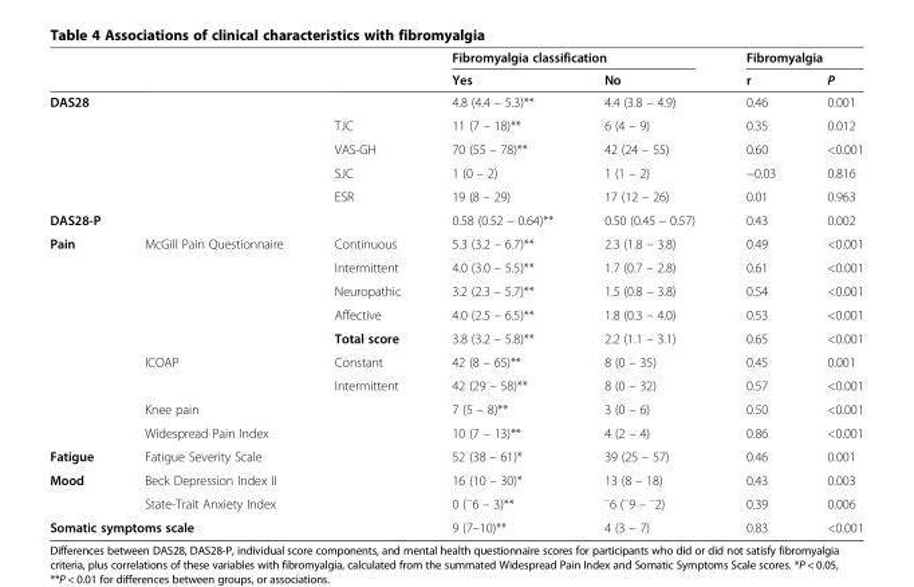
<table><thead><tr><td rowspan="2"></td><td rowspan="2"></td><td rowspan="2"></td><td colspan="2">Fibromyalgia classification</td><td colspan="2">Fibromyalgia</td></tr><tr><td>Yes</td><td>No</td><td>r</td><td>P</td></tr></thead><tbody><tr><td colspan="3">DAS28</td><td>4.8 (4.4 – 5.3)**</td><td>4.4 (3.8 – 4.9)</td><td>0.46</td><td>0.001</td></tr><tr><td colspan="2"></td><td>TJC</td><td>11 (7 – 18)**</td><td>6 (4 – 9)</td><td>0.35</td><td>0.012</td></tr><tr><td colspan="2"></td><td>VAS-GH</td><td>70 (55 – 78)**</td><td>42 (24 – 55)</td><td>0.60</td><td>&lt;0.001</td></tr><tr><td colspan="2"></td><td>SJC</td><td>1 (0 – 2)</td><td>1 (1 – 2)</td><td>−0.03</td><td>0.816</td></tr><tr><td colspan="2"></td><td>ESR</td><td>19 (8 – 29)</td><td>17 (12 – 26)</td><td>0.01</td><td>0.963</td></tr><tr><td colspan="3">DAS28-P</td><td>0.58 (0.52 – 0.64)**</td><td>0.50 (0.45 – 0.57)</td><td>0.43</td><td>0.002</td></tr><tr><td rowspan="9">Pain</td><td rowspan="5">McGill Pain Questionnaire</td><td>Continuous</td><td>5.3 (3.2 – 6.7)**</td><td>2.3 (1.8 – 3.8)</td><td>0.49</td><td>&lt;0.001</td></tr><tr><td>Intermittent</td><td>4.0 (3.0 – 5.5)**</td><td>1.7 (0.7 – 2.8)</td><td>0.61</td><td>&lt;0.001</td></tr><tr><td>Neuropathic</td><td>3.2 (2.3 – 5.7)**</td><td>1.5 (0.8 – 3.8)</td><td>0.54</td><td>&lt;0.001</td></tr><tr><td>Affective</td><td>4.0 (2.5 – 6.5)**</td><td>1.8 (0.3 – 4.0)</td><td>0.53</td><td>&lt;0.001</td></tr><tr><td>Total score</td><td>3.8 (3.2 – 5.8)**</td><td>2.2 (1.1 – 3.1)</td><td>0.65</td><td>&lt;0.001</td></tr><tr><td rowspan="2">ICOAP</td><td>Constant</td><td>42 (8 – 65)**</td><td>8 (0 – 35)</td><td>0.45</td><td>0.001</td></tr><tr><td>Intermittent</td><td>42 (29 – 58)**</td><td>8 (0 – 32)</td><td>0.57</td><td>&lt;0.001</td></tr><tr><td colspan="2">Knee pain</td><td>7 (5 – 8)**</td><td>3 (0 – 6)</td><td>0.50</td><td>&lt;0.001</td></tr><tr><td colspan="2">Widespread Pain Index</td><td>10 (7 – 13)**</td><td>4 (2 – 4)</td><td>0.86</td><td>&lt;0.001</td></tr><tr><td>Fatigue</td><td colspan="2">Fatigue Severity Scale</td><td>52 (38 – 61)*</td><td>39 (25 – 57)</td><td>0.46</td><td>0.001</td></tr><tr><td rowspan="2">Mood</td><td colspan="2">Beck Depression Index II</td><td>16 (10 – 30)*</td><td>13 (8 – 18)</td><td>0.43</td><td>0.003</td></tr><tr><td colspan="2">State-Trait Anxiety Index</td><td>0 (<sup>−</sup>6 – 3)**</td><td><sup>–</sup>6 (<sup>–</sup>9 – <sup>–</sup>2)</td><td>0.39</td><td>0.006</td></tr><tr><td colspan="3">Somatic symptoms scale</td><td>9 (7–10)**</td><td>4 (3 – 7)</td><td>0.83</td><td>&lt;0.001</td></tr></tbody></table>